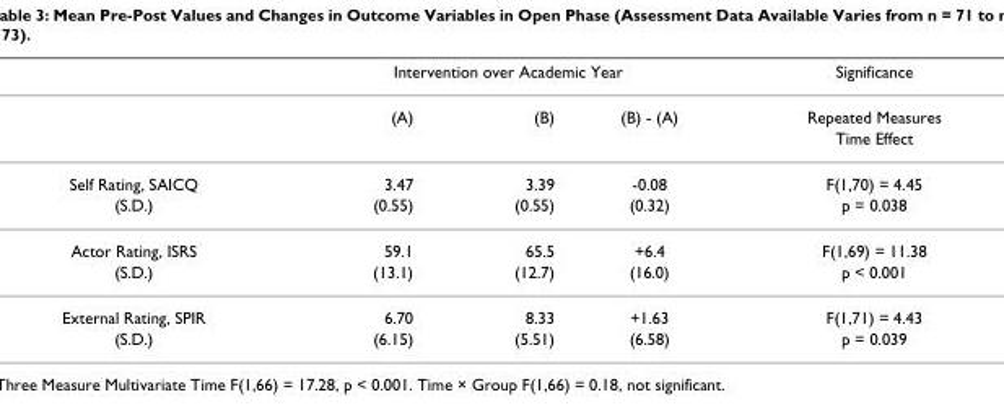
<table><thead><tr><td rowspan="2"></td><td colspan="3">Intervention over Academic Year</td><td rowspan="2">Significance Repeated Measures</td></tr><tr><td>(A)</td><td>(B)</td><td>(B) - (A)</td></tr></thead><tbody><tr><td></td><td></td><td></td><td></td><td>Time Effect</td></tr><tr><td>Self Rating, SAICQ</td><td>3.47</td><td>3.39</td><td>-0.08</td><td>F(1,70) = 4.45</td></tr><tr><td>(S.D.)</td><td>(0.55)</td><td>(0.55)</td><td>(0.32)</td><td>p = 0.038</td></tr><tr><td>Actor Rating, ISRS</td><td>59.1</td><td>65.5</td><td>+6.4</td><td>F(1,69) = 11.38</td></tr><tr><td>(S.D.)</td><td>(13.1)</td><td>(12.7)</td><td>(16.0)</td><td>p &lt; 0.001</td></tr><tr><td>External Rating, SPIR</td><td>6.70</td><td>8.33</td><td>+1.63</td><td>F(1,71) = 4.43</td></tr><tr><td>(S.D.)</td><td>(6.15)</td><td>(5.51)</td><td>(6.58)</td><td>p = 0.039</td></tr></tbody></table>